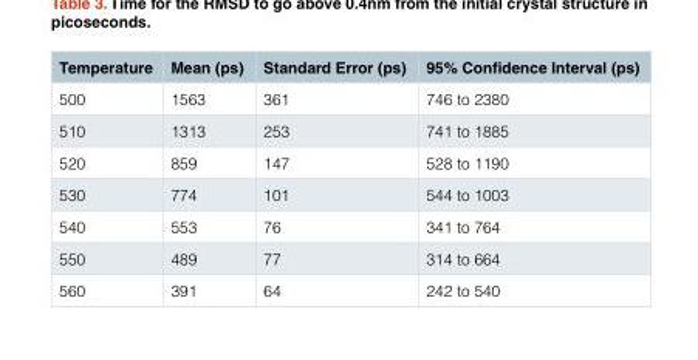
<table><thead><tr><td>Temperature</td><td>Mean (ps)</td><td>Standard Error (ps)</td><td>95% Confidence Interval (ps)</td></tr></thead><tbody><tr><td>500</td><td>1563</td><td>361</td><td>746 to 2380</td></tr><tr><td>510</td><td>1313</td><td>253</td><td>741 to 1885</td></tr><tr><td>520</td><td>859</td><td>147</td><td>528 to 1190</td></tr><tr><td>530</td><td>774</td><td>101</td><td>544 to 1003</td></tr><tr><td>540</td><td>553</td><td>76</td><td>341 to 764</td></tr><tr><td>550</td><td>489</td><td>77</td><td>314 to 664</td></tr><tr><td>560</td><td>391</td><td>64</td><td>242 to 540</td></tr></tbody></table>